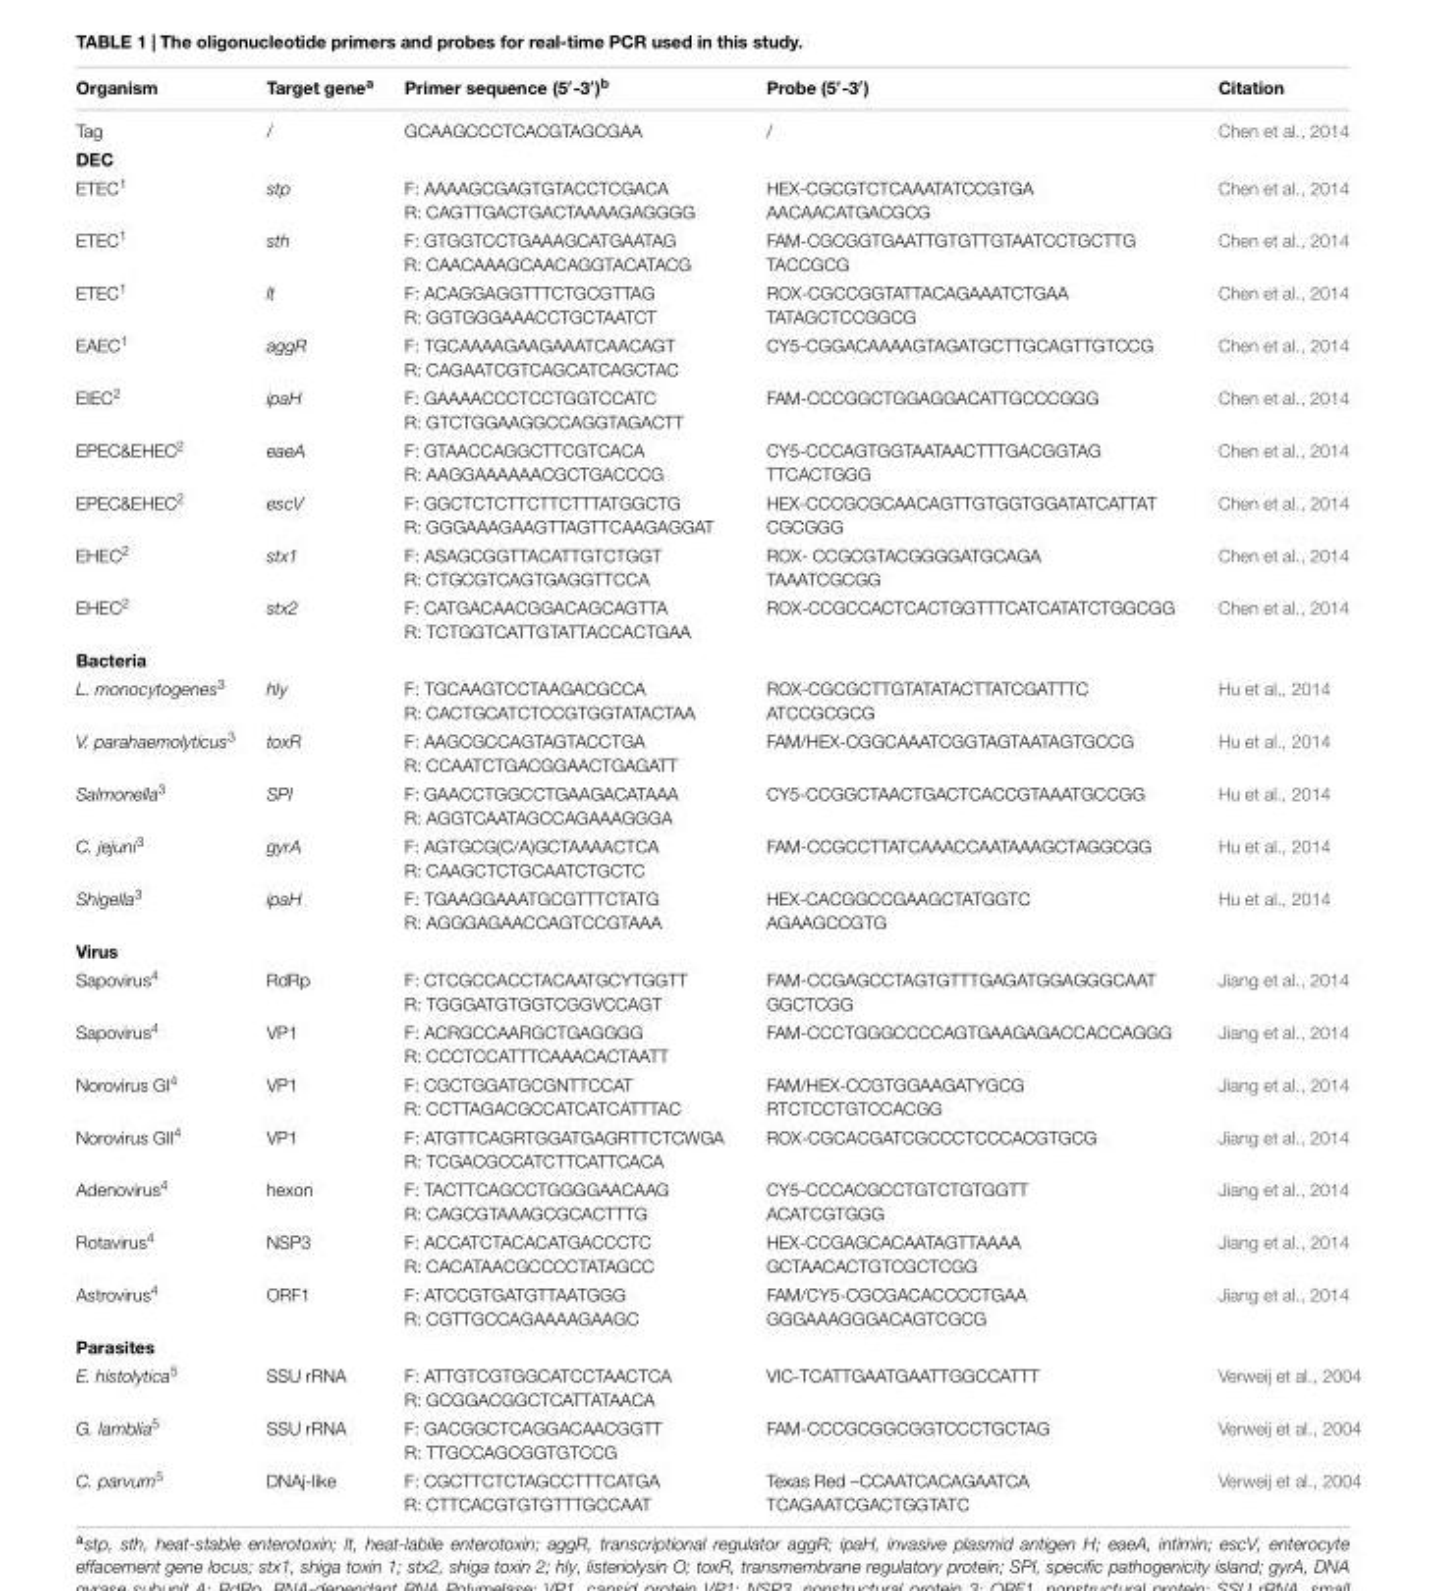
<table><thead><tr><td>Organism</td><td>Target gene<sup>a</sup></td><td>Primer sequence (5′-3′)<sup>b</sup></td><td>Probe (5′-3′)</td><td>Citation</td></tr></thead><tbody><tr><td>Tag</td><td>/</td><td>GCAAGCCCTCACGTAGCGAA</td><td>/</td><td>Chen et al., 2014</td></tr><tr><td colspan="5">DEC</td></tr><tr><td>ETEC<sup>1</sup></td><td>stp</td><td>F: AAAAGCGAGTGTACCTCGACA R: CAGTTGACTGACTAAAAGAGGGG</td><td>HEX-CGCGTCTCAAATATCCGTGA AACAACATGACGCG</td><td>Chen et al., 2014</td></tr><tr><td>ETEC<sup>1</sup></td><td>sth</td><td>F: GTGGTCCTGAAAGCATGAATAG R: CAACAAAGCAACAGGTACATACG</td><td>FAM-CGCGGTGAATTGTGTTGTAATCCTGCTTG TACCGCG</td><td>Chen et al., 2014</td></tr><tr><td>ETEC<sup>1</sup></td><td>lt</td><td>F: ACAGGAGGTTTCTGCGTTAG R: GGTGGGAAACCTGCTAATCT</td><td>ROX-CGCCGGTATTACAGAAATCTGAA TATAGCTCCGGCG</td><td>Chen et al., 2014</td></tr><tr><td>EAEC<sup>1</sup></td><td>aggR</td><td>F: TGCAAAAGAAGAAATCAACAGT R: CAGAATCGTCAGCATCAGCTAC</td><td>CY5-CGGACAAAAGTAGATGCTTGCAGTTGTCCG</td><td>Chen et al., 2014</td></tr><tr><td>EIEC<sup>2</sup></td><td>ipaH</td><td>F: GAAAACCCTCCTGGTCCATC R: GTCTGGAAGGCCAGGTAGACTT</td><td>FAM-CCCGGCTGGAGGACATTGCCCGGG</td><td>Chen et al., 2014</td></tr><tr><td>EPEC&amp;EHEC<sup>2</sup></td><td>eaeA</td><td>F: GTAACCAGGCTTCGTCACA R: AAGGAAAAAACGCTGACCCG</td><td>CY5-CCCAGTGGTAATAACTTTGACGGTAG TTCACTGGG</td><td>Chen et al., 2014</td></tr><tr><td>EPEC&amp;EHEC<sup>2</sup></td><td>escV</td><td>F: GGCTCTCTTCTTCTTTATGGCTG R: GGGAAAGAAGTTAGTTCAAGAGGAT</td><td>HEX-CCCGCGCAACAGTTGTGGTGGATATCATTAT CGCGGG</td><td>Chen et al., 2014</td></tr><tr><td>EHEC<sup>2</sup></td><td>stx1</td><td>F: ASAGCGGTTACATTGTCTGGT R: CTGCGTCAGTGAGGTTCCA</td><td>ROX- CCGCGTACGGGGATGCAGA TAAATCGCGG</td><td>Chen et al., 2014</td></tr><tr><td>EHEC<sup>2</sup></td><td>stx2</td><td>F: CATGACAACGGACAGCAGTTA R: TCTGGTCATTGTATTACCACTGAA</td><td>ROX-CCGCCACTCACTGGTTTCATCATATCTGGCGG</td><td>Chen et al., 2014</td></tr><tr><td colspan="5">Bacteria</td></tr><tr><td>L. monocytogenes<sup>3</sup></td><td>hly</td><td>F: TGCAAGTCCTAAGACGCCA R: CACTGCATCTCCGTGGTATACTAA</td><td>ROX-CGCGCTTGTATATACTTATCGATTTC ATCCGCGCG</td><td>Hu et al., 2014</td></tr><tr><td>V. parahaemolyticus<sup>3</sup></td><td>toxR</td><td>F: AAGCGCCAGTAGTACCTGA R: CCAATCTGACGGAACTGAGATT</td><td>FAM/HEX-CGGCAAATCGGTAGTAATAGTGCCG</td><td>Hu et al., 2014</td></tr><tr><td>Salmonella<sup>3</sup></td><td>SPI</td><td>F: GAACCTGGCCTGAAGACATAAA R: AGGTCAATAGCCAGAAAGGGA</td><td>CY5-CCGGCTAACTGACTCACCGTAAATGCCGG</td><td>Hu et al., 2014</td></tr><tr><td>C. jejuni<sup>3</sup></td><td>gyrA</td><td>F: AGTGCG(C/A)GCTAAAACTCA R: CAAGCTCTGCAATCTGCTC</td><td>FAM-CCGCCTTATCAAACCAATAAAGCTAGGCGG</td><td>Hu et al., 2014</td></tr><tr><td>Shigella<sup>3</sup></td><td>ipaH</td><td>F: TGAAGGAAATGCGTTTCTATG R: AGGGAGAACCAGTCCGTAAA</td><td>HEX-CACGGCCGAAGCTATGGTC AGAAGCCGTG</td><td>Hu et al., 2014</td></tr><tr><td colspan="5">Virus</td></tr><tr><td>Sapovirus<sup>4</sup></td><td>RdRp</td><td>F: CTCGCCACCTACAATGCYTGGTT R: TGGGATGTGGTCGGVCCAGT</td><td>FAM-CCGAGCCTAGTGTTTGAGATGGAGGGCAAT GGCTCGG</td><td>Jiang et al., 2014</td></tr><tr><td>Sapovirus<sup>4</sup></td><td>VP1</td><td>F: ACRGCCAARGCTGAGGGG R: CCCTCCATTTCAAACACTAATT</td><td>FAM-CCCTGGGCCCCAGTGAAGAGACCACCAGGG</td><td>Jiang et al., 2014</td></tr><tr><td>Norovirus GI<sup>4</sup></td><td>VP1</td><td>F: CGCTGGATGCGNTTCCAT R: CCTTAGACGCCATCATCATTTAC</td><td>FAM/HEX-CCGTGGAAGATYGCG RTCTCCTGTCCACGG</td><td>Jiang et al., 2014</td></tr><tr><td>Norovirus GII<sup>4</sup></td><td>VP1</td><td>F: ATGTTCAGRTGGATGAGRTTCTCWGA R: TCGACGCCATCTTCATTCACA</td><td>ROX-CGCACGATCGCCCTCCCACGTGCG</td><td>Jiang et al., 2014</td></tr><tr><td>Adenovirus<sup>4</sup></td><td>hexon</td><td>F: TACTTCAGCCTGGGGAACAAG R: CAGCGTAAAGCGCACTTTG</td><td>CY5-CCCACGCCTGTCTGTGGTT ACATCGTGGG</td><td>Jiang et al., 2014</td></tr><tr><td>Rotavirus<sup>4</sup></td><td>NSP3</td><td>F: ACCATCTACACATGACCCTC R: CACATAACGCCCCTATAGCC</td><td>HEX-CCGAGCACAATAGTTAAAA GCTAACACTGTCGCTCGG</td><td>Jiang et al., 2014</td></tr><tr><td>Astrovirus<sup>4</sup></td><td>ORF1</td><td>F: ATCCGTGATGTTAATGGG R: CGTTGCCAGAAAAGAAGC</td><td>FAM/CY5-CGCGACACCCCTGAA GGGAAAGGGACAGTCGCG</td><td>Jiang et al., 2014</td></tr><tr><td colspan="5">Parasites</td></tr><tr><td>E. histolytica<sup>5</sup></td><td>SSU rRNA</td><td>F: ATTGTCGTGGCATCCTAACTCA R: GCGGACGGCTCATTATAACA</td><td>VIC-TCATTGAATGAATTGGCCATTT</td><td>Verweij et al., 2004</td></tr><tr><td>G. lamblia<sup>5</sup></td><td>SSU rRNA</td><td>F: GACGGCTCAGGACAACGGTT R: TTGCCAGCGGTGTCCG</td><td>FAM-CCCGCGGCGGTCCCTGCTAG</td><td>Verweij et al., 2004</td></tr><tr><td>C. parvum<sup>5</sup></td><td>DNAj-like</td><td>F: CGCTTCTCTAGCCTTTCATGA R: CTTCACGTGTGTTTGCCAAT</td><td>Texas Red –CCAATCACAGAATCA TCAGAATCGACTGGTATC</td><td>Verweij et al., 2004</td></tr></tbody></table>